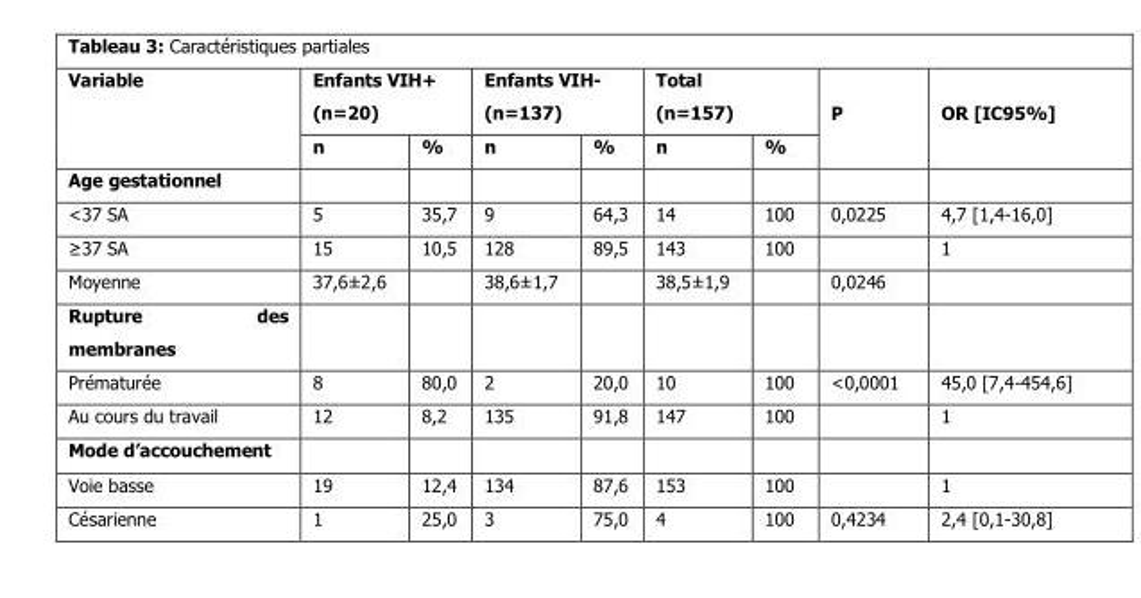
<table><thead><tr><td rowspan="2">Variable</td><td colspan="2">Enfants VIH+ (n=20)</td><td colspan="2">Enfants VIH- (n=137)</td><td colspan="2">Total (n=157)</td><td rowspan="2">P</td><td rowspan="2">OR [IC95%]</td></tr><tr><td>n</td><td>%</td><td>n</td><td>%</td><td>n</td><td>%</td></tr></thead><tbody><tr><td colspan="9">Age gestationnel</td></tr><tr><td>&lt;37 SA</td><td>5</td><td>35,7</td><td>9</td><td>64,3</td><td>14</td><td>100</td><td>0,0225</td><td>4,7 [1,4-16,0]</td></tr><tr><td>≥37 SA</td><td>15</td><td>10,5</td><td>128</td><td>89,5</td><td>143</td><td>100</td><td></td><td>1</td></tr><tr><td>Moyenne</td><td>37,6±2,6</td><td></td><td>38,6±1,7</td><td></td><td>38,5±1,9</td><td></td><td>0,0246</td><td></td></tr><tr><td colspan="9">Rupture des membranes</td></tr><tr><td>Prématurée</td><td>8</td><td>80,0</td><td>2</td><td>20,0</td><td>10</td><td>100</td><td>&lt;0,0001</td><td>45,0 [7,4-454,6]</td></tr><tr><td>Au cours du travail</td><td>12</td><td>8,2</td><td>135</td><td>91,8</td><td>147</td><td>100</td><td></td><td>1</td></tr><tr><td colspan="9">Mode d’accouchement</td></tr><tr><td>Voie basse</td><td>19</td><td>12,4</td><td>134</td><td>87,6</td><td>153</td><td>100</td><td></td><td>1</td></tr><tr><td>Césarienne</td><td>1</td><td>25,0</td><td>3</td><td>75,0</td><td>4</td><td>100</td><td>0,4234</td><td>2,4 [0,1-30,8]</td></tr></tbody></table>